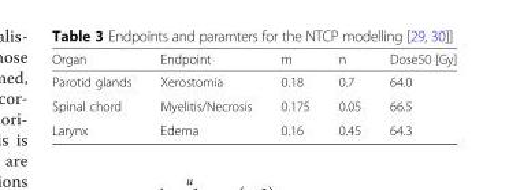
<table><thead><tr><td>Organ</td><td>Endpoint</td><td>m</td><td>n</td><td>Dose50 [Gy]</td></tr></thead><tbody><tr><td>Parotid glands</td><td>Xerostomia</td><td>0.18</td><td>0.7</td><td>64.0</td></tr><tr><td>Spinal chord</td><td>Myelitis/Necrosis</td><td>0.175</td><td>0.05</td><td>66.5</td></tr><tr><td>Larynx</td><td>Edema</td><td>0.16</td><td>0.45</td><td>64.3</td></tr></tbody></table>